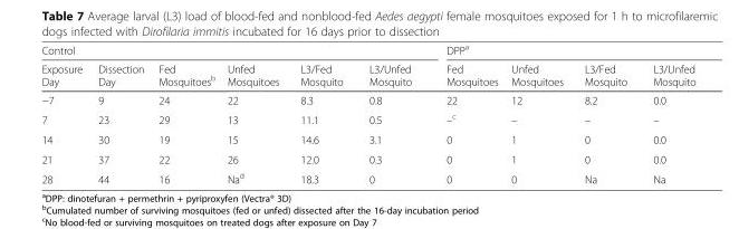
<table><thead><tr><td colspan="6">Control</td><td colspan="4">DPP<sup>a</sup></td></tr><tr><td>Exposure Day</td><td>Dissection Day</td><td>Fed Mosquitoes<sup>b</sup></td><td>Unfed Mosquitoes</td><td>L3/Fed Mosquito</td><td>L3/Unfed Mosquito</td><td>Fed Mosquitoes</td><td>Unfed Mosquitoes</td><td>L3/Fed Mosquito</td><td>L3/Unfed Mosquito</td></tr></thead><tbody><tr><td>−7</td><td>9</td><td>24</td><td>22</td><td>8.3</td><td>0.8</td><td>22</td><td>12</td><td>8.2</td><td>0.0</td></tr><tr><td>7</td><td>23</td><td>29</td><td>13</td><td>11.1</td><td>0.5</td><td>–<sup>c</sup></td><td>–</td><td>–</td><td>–</td></tr><tr><td>14</td><td>30</td><td>19</td><td>15</td><td>14.6</td><td>3.1</td><td>0</td><td>1</td><td>0</td><td>0.0</td></tr><tr><td>21</td><td>37</td><td>22</td><td>26</td><td>12.0</td><td>0.3</td><td>0</td><td>1</td><td>0</td><td>0.0</td></tr><tr><td>28</td><td>44</td><td>16</td><td>Na<sup>d</sup></td><td>18.3</td><td>0</td><td>0</td><td>0</td><td>Na</td><td>Na</td></tr></tbody></table>